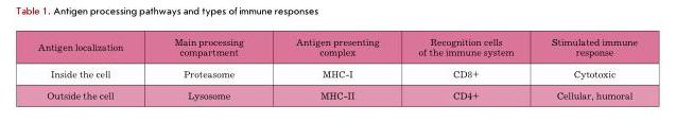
<table><thead><tr><td>Antigen localization</td><td>Main processing compartment</td><td>Antigen presenting complex</td><td>Recognition cells of the immune system</td><td>Stimulated immune response</td></tr></thead><tbody><tr><td>Inside the cell</td><td>Proteasome</td><td>MHC-I</td><td>CD8+</td><td>Cytotoxic</td></tr><tr><td>Outside the cell</td><td>Lysosome</td><td>MHC-II</td><td>CD4+</td><td>Cellular, humoral</td></tr></tbody></table>